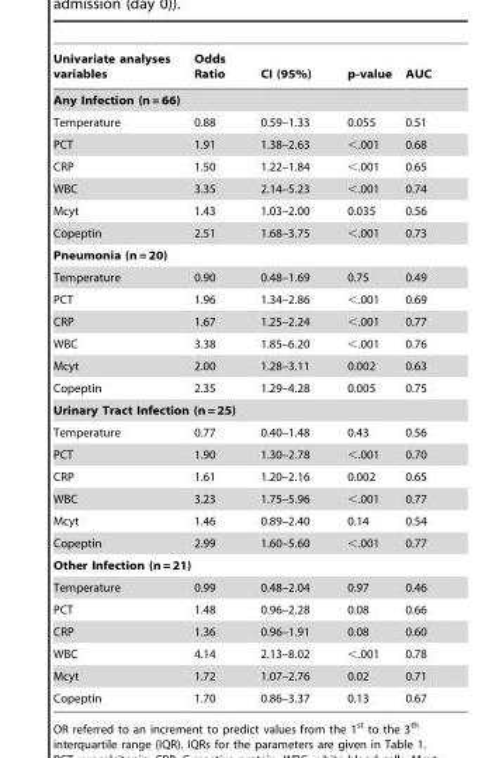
<table><thead><tr><td>Univariate analyses variables</td><td>Odds Ratio</td><td>CI (95%)</td><td>p-value</td><td>AUC</td></tr></thead><tbody><tr><td colspan="5">Any Infection (n = 66)</td></tr><tr><td>Temperature</td><td>0.88</td><td>0.59–1.33</td><td>0.055</td><td>0.51</td></tr><tr><td>PCT</td><td>1.91</td><td>1.38–2.63</td><td>&lt;.001</td><td>0.68</td></tr><tr><td>CRP</td><td>1.50</td><td>1.22–1.84</td><td>&lt;.001</td><td>0.65</td></tr><tr><td>WBC</td><td>3.35</td><td>2.14–5.23</td><td>&lt;.001</td><td>0.74</td></tr><tr><td>Mcyt</td><td>1.43</td><td>1.03–2.00</td><td>0.035</td><td>0.56</td></tr><tr><td>Copeptin</td><td>2.51</td><td>1.68–3.75</td><td>&lt;.001</td><td>0.73</td></tr><tr><td colspan="5">Pneumonia (n = 20)</td></tr><tr><td>Temperature</td><td>0.90</td><td>0.48–1.69</td><td>0.75</td><td>0.49</td></tr><tr><td>PCT</td><td>1.96</td><td>1.34–2.86</td><td>&lt;.001</td><td>0.69</td></tr><tr><td>CRP</td><td>1.67</td><td>1.25–2.24</td><td>&lt;.001</td><td>0.77</td></tr><tr><td>WBC</td><td>3.38</td><td>1.85–6.20</td><td>&lt;.001</td><td>0.76</td></tr><tr><td>Mcyt</td><td>2.00</td><td>1.28–3.11</td><td>0.002</td><td>0.63</td></tr><tr><td>Copeptin</td><td>2.35</td><td>1.29–4.28</td><td>0.005</td><td>0.75</td></tr><tr><td colspan="5">Urinary Tract Infection (n = 25)</td></tr><tr><td>Temperature</td><td>0.77</td><td>0.40–1.48</td><td>0.43</td><td>0.56</td></tr><tr><td>PCT</td><td>1.90</td><td>1.30–2.78</td><td>&lt;.001</td><td>0.70</td></tr><tr><td>CRP</td><td>1.61</td><td>1.20–2.16</td><td>0.002</td><td>0.65</td></tr><tr><td>WBC</td><td>3.23</td><td>1.75–5.96</td><td>&lt;.001</td><td>0.77</td></tr><tr><td>Mcyt</td><td>1.46</td><td>0.89–2.40</td><td>0.14</td><td>0.54</td></tr><tr><td>Copeptin</td><td>2.99</td><td>1.60–5.60</td><td>&lt;.001</td><td>0.77</td></tr><tr><td colspan="5">Other Infection (n = 21)</td></tr><tr><td>Temperature</td><td>0.99</td><td>0.48–2.04</td><td>0.97</td><td>0.46</td></tr><tr><td>PCT</td><td>1.48</td><td>0.96–2.28</td><td>0.08</td><td>0.66</td></tr><tr><td>CRP</td><td>1.36</td><td>0.96–1.91</td><td>0.08</td><td>0.60</td></tr><tr><td>WBC</td><td>4.14</td><td>2.13–8.02</td><td>&lt;.001</td><td>0.78</td></tr><tr><td>Mcyt</td><td>1.72</td><td>1.07–2.76</td><td>0.02</td><td>0.71</td></tr><tr><td>Copeptin</td><td>1.70</td><td>0.86–3.37</td><td>0.13</td><td>0.67</td></tr></tbody></table>